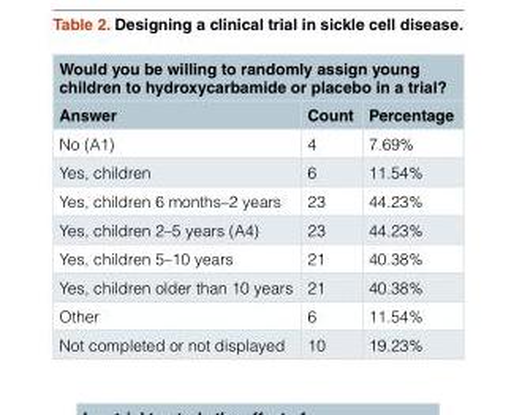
<table><thead><tr><td colspan="3">Would you be willing to randomly assign young children to hydroxycarbamide or placebo in a trial?</td></tr><tr><td>Answer</td><td>Count</td><td>Percentage</td></tr></thead><tbody><tr><td>No (A1)</td><td>4</td><td>7.69%</td></tr><tr><td>Yes, children</td><td>6</td><td>11.54%</td></tr><tr><td>Yes, children 6 months–2 years</td><td>23</td><td>44.23%</td></tr><tr><td>Yes, children 2–5 years (A4)</td><td>23</td><td>44.23%</td></tr><tr><td>Yes, children 5–10 years</td><td>21</td><td>40.38%</td></tr><tr><td>Yes, children older than 10 years</td><td>21</td><td>40.38%</td></tr><tr><td>Other</td><td>6</td><td>11.54%</td></tr><tr><td>Not completed or not displayed</td><td>10</td><td>19.23%</td></tr></tbody></table>